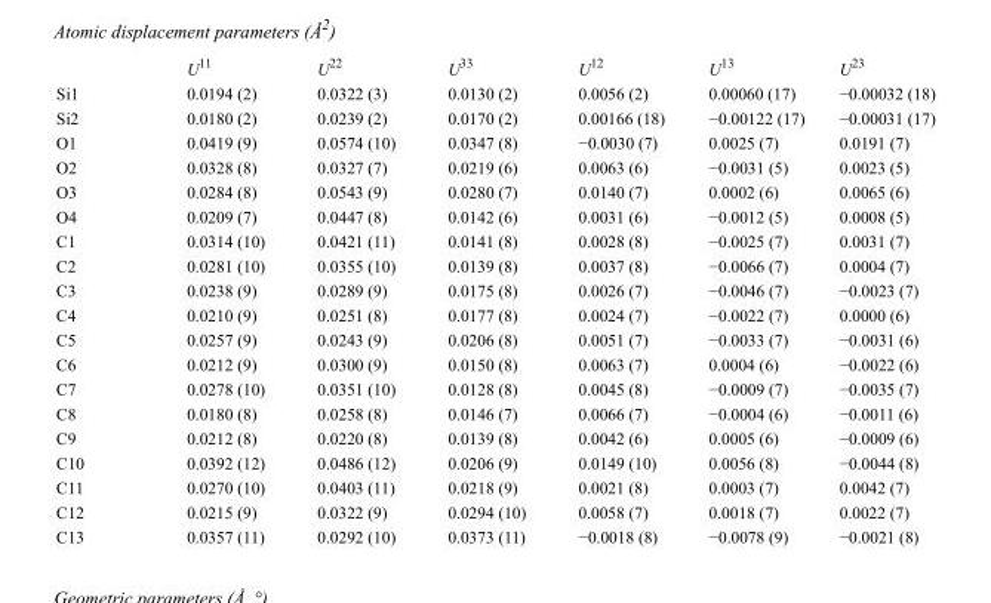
<table><thead><tr><td></td><td>U<sup>11</sup></td><td>U<sup>22</sup></td><td>U<sup>33</sup></td><td>U<sup>12</sup></td><td>U<sup>13</sup></td><td>U<sup>23</sup></td></tr></thead><tbody><tr><td>Si1</td><td>0.0194 (2)</td><td>0.0322 (3)</td><td>0.0130 (2)</td><td>0.0056 (2)</td><td>0.00060 (17)</td><td>−0.00032 (18)</td></tr><tr><td>Si2</td><td>0.0180 (2)</td><td>0.0239 (2)</td><td>0.0170 (2)</td><td>0.00166 (18)</td><td>−0.00122 (17)</td><td>−0.00031 (17)</td></tr><tr><td>O1</td><td>0.0419 (9)</td><td>0.0574 (10)</td><td>0.0347 (8)</td><td>−0.0030 (7)</td><td>0.0025 (7)</td><td>0.0191 (7)</td></tr><tr><td>O2</td><td>0.0328 (8)</td><td>0.0327 (7)</td><td>0.0219 (6)</td><td>0.0063 (6)</td><td>−0.0031 (5)</td><td>0.0023 (5)</td></tr><tr><td>O3</td><td>0.0284 (8)</td><td>0.0543 (9)</td><td>0.0280 (7)</td><td>0.0140 (7)</td><td>0.0002 (6)</td><td>0.0065 (6)</td></tr><tr><td>O4</td><td>0.0209 (7)</td><td>0.0447 (8)</td><td>0.0142 (6)</td><td>0.0031 (6)</td><td>−0.0012 (5)</td><td>0.0008 (5)</td></tr><tr><td>C1</td><td>0.0314 (10)</td><td>0.0421 (11)</td><td>0.0141 (8)</td><td>0.0028 (8)</td><td>−0.0025 (7)</td><td>0.0031 (7)</td></tr><tr><td>C2</td><td>0.0281 (10)</td><td>0.0355 (10)</td><td>0.0139 (8)</td><td>0.0037 (8)</td><td>−0.0066 (7)</td><td>0.0004 (7)</td></tr><tr><td>C3</td><td>0.0238 (9)</td><td>0.0289 (9)</td><td>0.0175 (8)</td><td>0.0026 (7)</td><td>−0.0046 (7)</td><td>−0.0023 (7)</td></tr><tr><td>C4</td><td>0.0210 (9)</td><td>0.0251 (8)</td><td>0.0177 (8)</td><td>0.0024 (7)</td><td>−0.0022 (7)</td><td>0.0000 (6)</td></tr><tr><td>C5</td><td>0.0257 (9)</td><td>0.0243 (9)</td><td>0.0206 (8)</td><td>0.0051 (7)</td><td>−0.0033 (7)</td><td>−0.0031 (6)</td></tr><tr><td>C6</td><td>0.0212 (9)</td><td>0.0300 (9)</td><td>0.0150 (8)</td><td>0.0063 (7)</td><td>0.0004 (6)</td><td>−0.0022 (6)</td></tr><tr><td>C7</td><td>0.0278 (10)</td><td>0.0351 (10)</td><td>0.0128 (8)</td><td>0.0045 (8)</td><td>−0.0009 (7)</td><td>−0.0035 (7)</td></tr><tr><td>C8</td><td>0.0180 (8)</td><td>0.0258 (8)</td><td>0.0146 (7)</td><td>0.0066 (7)</td><td>−0.0004 (6)</td><td>−0.0011 (6)</td></tr><tr><td>C9</td><td>0.0212 (8)</td><td>0.0220 (8)</td><td>0.0139 (8)</td><td>0.0042 (6)</td><td>0.0005 (6)</td><td>−0.0009 (6)</td></tr><tr><td>C10</td><td>0.0392 (12)</td><td>0.0486 (12)</td><td>0.0206 (9)</td><td>0.0149 (10)</td><td>0.0056 (8)</td><td>−0.0044 (8)</td></tr><tr><td>C11</td><td>0.0270 (10)</td><td>0.0403 (11)</td><td>0.0218 (9)</td><td>0.0021 (8)</td><td>0.0003 (7)</td><td>0.0042 (7)</td></tr><tr><td>C12</td><td>0.0215 (9)</td><td>0.0322 (9)</td><td>0.0294 (10)</td><td>0.0058 (7)</td><td>0.0018 (7)</td><td>0.0022 (7)</td></tr><tr><td>C13</td><td>0.0357 (11)</td><td>0.0292 (10)</td><td>0.0373 (11)</td><td>−0.0018 (8)</td><td>−0.0078 (9)</td><td>−0.0021 (8)</td></tr></tbody></table>